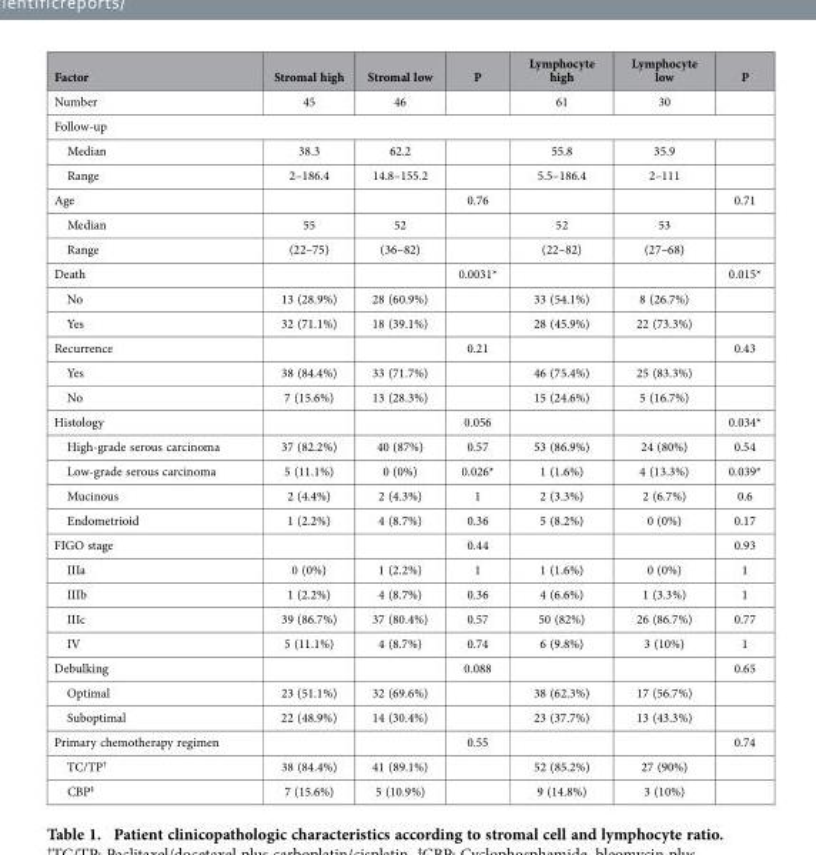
<table><thead><tr><td>Factor</td><td>Stromal high</td><td>Stromal low</td><td>P</td><td>Lymphocyte high</td><td>Lymphocyte low</td><td>P</td></tr></thead><tbody><tr><td>Number</td><td>45</td><td>46</td><td></td><td>61</td><td>30</td><td></td></tr><tr><td colspan="7">Follow-up</td></tr><tr><td>Median</td><td>38.3</td><td>62.2</td><td></td><td>55.8</td><td>35.9</td><td></td></tr><tr><td>Range</td><td>2–186.4</td><td>14.8–155.2</td><td></td><td>5.5–186.4</td><td>2–111</td><td></td></tr><tr><td>Age</td><td></td><td></td><td>0.76</td><td></td><td></td><td>0.71</td></tr><tr><td>Median</td><td>55</td><td>52</td><td></td><td>52</td><td>53</td><td></td></tr><tr><td>Range</td><td>(22–75)</td><td>(36–82)</td><td></td><td>(22–82)</td><td>(27–68)</td><td></td></tr><tr><td>Death</td><td></td><td></td><td>0.0031*</td><td></td><td></td><td>0.015*</td></tr><tr><td>No</td><td>13 (28.9%)</td><td>28 (60.9%)</td><td></td><td>33 (54.1%)</td><td>8 (26.7%)</td><td></td></tr><tr><td>Yes</td><td>32 (71.1%)</td><td>18 (39.1%)</td><td></td><td>28 (45.9%)</td><td>22 (73.3%)</td><td></td></tr><tr><td>Recurrence</td><td></td><td></td><td>0.21</td><td></td><td></td><td>0.43</td></tr><tr><td>Yes</td><td>38 (84.4%)</td><td>33 (71.7%)</td><td></td><td>46 (75.4%)</td><td>25 (83.3%)</td><td></td></tr><tr><td>No</td><td>7 (15.6%)</td><td>13 (28.3%)</td><td></td><td>15 (24.6%)</td><td>5 (16.7%)</td><td></td></tr><tr><td>Histology</td><td></td><td></td><td>0.056</td><td></td><td></td><td>0.034*</td></tr><tr><td>High-grade serous carcinoma</td><td>37 (82.2%)</td><td>40 (87%)</td><td>0.57</td><td>53 (86.9%)</td><td>24 (80%)</td><td>0.54</td></tr><tr><td>Low-grade serous carcinoma</td><td>5 (11.1%)</td><td>0 (0%)</td><td>0.026*</td><td>1 (1.6%)</td><td>4 (13.3%)</td><td>0.039*</td></tr><tr><td>Mucinous</td><td>2 (4.4%)</td><td>2 (4.3%)</td><td>1</td><td>2 (3.3%)</td><td>2 (6.7%)</td><td>0.6</td></tr><tr><td>Endometrioid</td><td>1 (2.2%)</td><td>4 (8.7%)</td><td>0.36</td><td>5 (8.2%)</td><td>0 (0%)</td><td>0.17</td></tr><tr><td>FIGO stage</td><td></td><td></td><td>0.44</td><td></td><td></td><td>0.93</td></tr><tr><td>IIIa</td><td>0 (0%)</td><td>1 (2.2%)</td><td>1</td><td>1 (1.6%)</td><td>0 (0%)</td><td>1</td></tr><tr><td>IIIb</td><td>1 (2.2%)</td><td>4 (8.7%)</td><td>0.36</td><td>4 (6.6%)</td><td>1 (3.3%)</td><td>1</td></tr><tr><td>IIIc</td><td>39 (86.7%)</td><td>37 (80.4%)</td><td>0.57</td><td>50 (82%)</td><td>26 (86.7%)</td><td>0.77</td></tr><tr><td>IV</td><td>5 (11.1%)</td><td>4 (8.7%)</td><td>0.74</td><td>6 (9.8%)</td><td>3 (10%)</td><td>1</td></tr><tr><td>Debulking</td><td></td><td></td><td>0.088</td><td></td><td></td><td>0.65</td></tr><tr><td>Optimal</td><td>23 (51.1%)</td><td>32 (69.6%)</td><td></td><td>38 (62.3%)</td><td>17 (56.7%)</td><td></td></tr><tr><td>Suboptimal</td><td>22 (48.9%)</td><td>14 (30.4%)</td><td></td><td>23 (37.7%)</td><td>13 (43.3%)</td><td></td></tr><tr><td>Primary chemotherapy regimen</td><td></td><td></td><td>0.55</td><td></td><td></td><td>0.74</td></tr><tr><td>TC/TP†</td><td>38 (84.4%)</td><td>41 (89.1%)</td><td></td><td>52 (85.2%)</td><td>27 (90%)</td><td></td></tr><tr><td>CBP‡</td><td>7 (15.6%)</td><td>5 (10.9%)</td><td></td><td>9 (14.8%)</td><td>3 (10%)</td><td></td></tr></tbody></table>